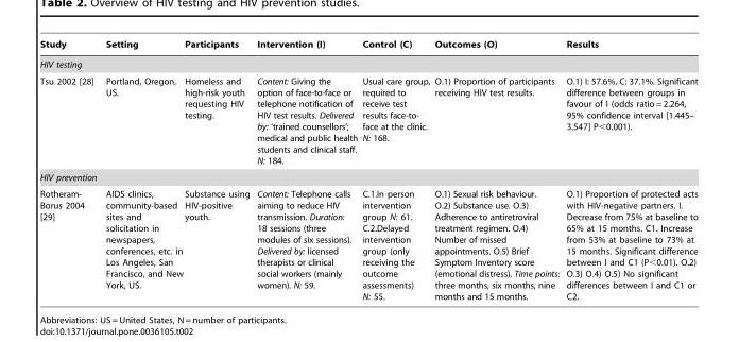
<table><thead><tr><td>Study</td><td>Setting</td><td>Participants</td><td>Intervention (I)</td><td>Control (C)</td><td>Outcomes (O)</td><td>Results</td></tr></thead><tbody><tr><td colspan="7">HIV testing</td></tr><tr><td>Tsu 2002 [28]</td><td>Portland, Oregon, US.</td><td>Homeless and high-risk youth requesting HIV testing.</td><td>Content: Giving the option of face-to-face or telephone notification of HIV test results. Delivered by: ‘trained counsellors’; medical and public health students and clinical staff. N: 184.</td><td>Usual care group, required to receive test results face-to- face at the clinic. N: 168.</td><td>O.1) Proportion of participants receiving HIV test results.</td><td>O.1) I: 57.6%, C: 37.1%. Significant difference between groups in favour of I (odds ratio = 2.264, 95% confidence interval [1.445– 3.547] P&lt;0.001).</td></tr><tr><td colspan="7">HIV prevention</td></tr><tr><td>Rotheram- Borus 2004 [29]</td><td>AIDS clinics, community-based sites and solicitation in newspapers, conferences, etc. in Los Angeles, San Francisco, and New York, US.</td><td>Substance using HIV-positive youth.</td><td>Content: Telephone calls aiming to reduce HIV transmission. Duration: 18 sessions (three modules of six sessions). Delivered by: licensed therapists or clinical social workers (mainly women). N: 59.</td><td>C.1.In person intervention group N: 61. C.2.Delayed intervention group (only receiving the outcome assessments) N: 55.</td><td>O.1) Sexual risk behaviour. O.2) Substance use. O.3) Adherence to antiretroviral treatment regimen. O.4) Number of missed appointments. O.5) Brief Symptom Inventory score (emotional distress). Time points: three months, six months, nine months and 15 months.</td><td>O.1) Proportion of protected acts with HIV-negative partners. I. Decrease from 75% at baseline to 65% at 15 months. C1. Increase from 53% at baseline to 73% at 15 months. Significant difference between I and C1 (P&lt;0.01). O.2) O.3) O.4) O.5) No significant differences between I and C1 or C2.</td></tr></tbody></table>